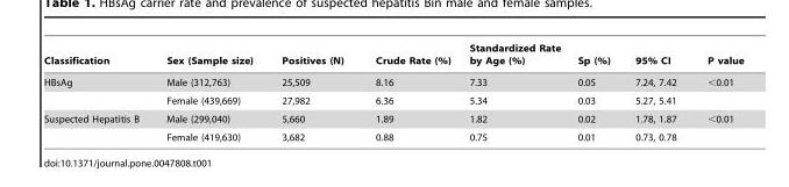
<table><thead><tr><td>Classification</td><td>Sex (Sample size)</td><td>Positives (N)</td><td>Crude Rate (%)</td><td>Standardized Rate by Age (%)</td><td>Sp (%)</td><td>95% CI</td><td>P value</td></tr></thead><tbody><tr><td rowspan="2">HBsAg</td><td>Male (312,763)</td><td>25,509</td><td>8.16</td><td>7.33</td><td>0.05</td><td>7.24, 7.42</td><td>&lt;0.01</td></tr><tr><td>Female (439,669)</td><td>27,982</td><td>6.36</td><td>5.34</td><td>0.03</td><td>5.27, 5.41</td><td></td></tr><tr><td rowspan="2">Suspected Hepatitis B</td><td>Male (299,040)</td><td>5,660</td><td>1.89</td><td>1.82</td><td>0.02</td><td>1.78, 1.87</td><td>&lt;0.01</td></tr><tr><td>Female (419,630)</td><td>3,682</td><td>0.88</td><td>0.75</td><td>0.01</td><td>0.73, 0.78</td><td></td></tr></tbody></table>